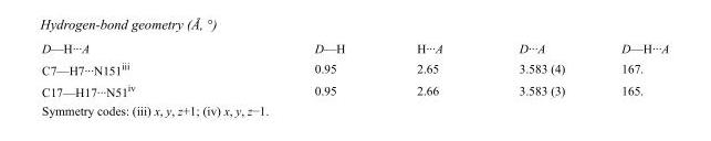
<table><tbody><tr><td>D—H···A</td><td>D—H</td><td>H···A</td><td>D···A</td><td>D—H···A</td></tr><tr><td>C7—H7···N151<sup>iii</sup></td><td>0.95</td><td>2.65</td><td>3.583 (4)</td><td>167.</td></tr><tr><td>C17—H17···N51<sup>iv</sup></td><td>0.95</td><td>2.66</td><td>3.583 (3)</td><td>165.</td></tr></tbody></table>